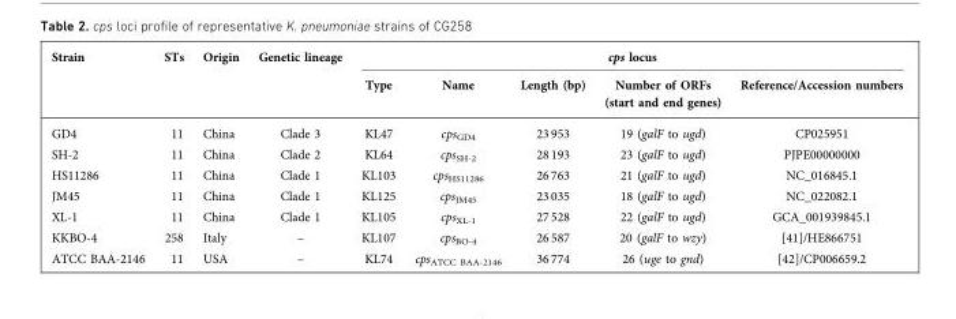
<table><thead><tr><td rowspan="2">Strain</td><td rowspan="2">STs</td><td rowspan="2">Origin</td><td rowspan="2">Genetic lineage</td><td colspan="5">cps locus</td></tr><tr><td>Type</td><td>Name</td><td>Length (bp)</td><td>Number of ORFs (start and end genes)</td><td>Reference/Accession numbers</td></tr></thead><tbody><tr><td>GD4</td><td>11</td><td>China</td><td>Clade 3</td><td>KL47</td><td>cps<sub>GD4</sub></td><td>23 953</td><td>19 (galF to ugd)</td><td>CP025951</td></tr><tr><td>SH-2</td><td>11</td><td>China</td><td>Clade 2</td><td>KL64</td><td>cps<sub>SH-2</sub></td><td>28 193</td><td>23 (galF to ugd)</td><td>PJPE00000000</td></tr><tr><td>HS11286</td><td>11</td><td>China</td><td>Clade 1</td><td>KL103</td><td>cps<sub>HS11286</sub></td><td>26 763</td><td>21 (galF to ugd)</td><td>NC_016845.1</td></tr><tr><td>JM45</td><td>11</td><td>China</td><td>Clade 1</td><td>KL125</td><td>cps<sub>JM45</sub></td><td>23 035</td><td>18 (galF to ugd)</td><td>NC_022082.1</td></tr><tr><td>XL-1</td><td>11</td><td>China</td><td>Clade 1</td><td>KL105</td><td>cps<sub>XL-1</sub></td><td>27 528</td><td>22 (galF to ugd)</td><td>GCA_001939845.1</td></tr><tr><td>KKBO-4</td><td>258</td><td>Italy</td><td>–</td><td>KL107</td><td>cps<sub>BO-4</sub></td><td>26 587</td><td>20 (galF to wzy)</td><td>[41]/HE866751</td></tr><tr><td>ATCC BAA-2146</td><td>11</td><td>USA</td><td>–</td><td>KL74</td><td>cps<sub>ATCC BAA-2146</sub></td><td>36 774</td><td>26 (uge to gnd)</td><td>[42]/CP006659.2</td></tr></tbody></table>